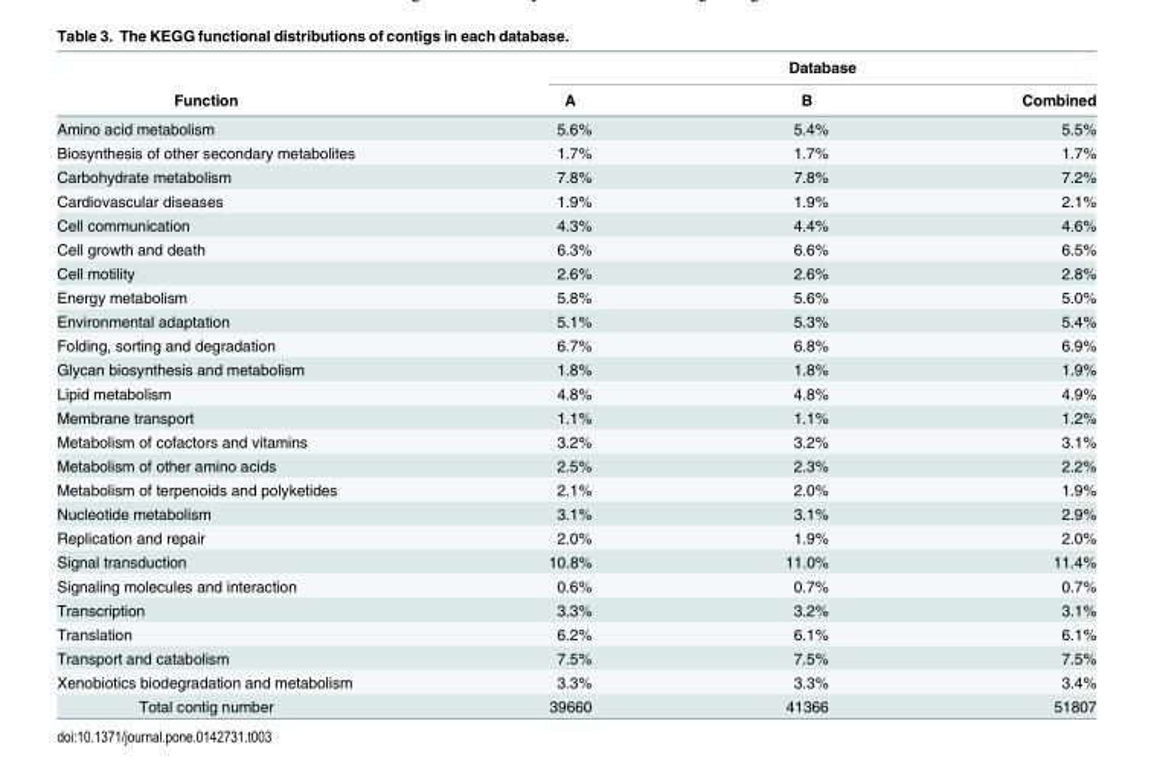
<table><thead><tr><td rowspan="2">Function</td><td colspan="3">Database</td></tr><tr><td>A</td><td>B</td><td>Combined</td></tr></thead><tbody><tr><td>Amino acid metabolism</td><td>5.6%</td><td>5.4%</td><td>5.5%</td></tr><tr><td>Biosynthesis of other secondary metabolites</td><td>1.7%</td><td>1.7%</td><td>1.7%</td></tr><tr><td>Carbohydrate metabolism</td><td>7.8%</td><td>7.8%</td><td>7.2%</td></tr><tr><td>Cardiovascular diseases</td><td>1.9%</td><td>1.9%</td><td>2.1%</td></tr><tr><td>Cell communication</td><td>4.3%</td><td>4.4%</td><td>4.6%</td></tr><tr><td>Cell growth and death</td><td>6.3%</td><td>6.6%</td><td>6.5%</td></tr><tr><td>Cell motility</td><td>2.6%</td><td>2.6%</td><td>2.8%</td></tr><tr><td>Energy metabolism</td><td>5.8%</td><td>5.6%</td><td>5.0%</td></tr><tr><td>Environmental adaptation</td><td>5.1%</td><td>5.3%</td><td>5.4%</td></tr><tr><td>Folding, sorting and degradation</td><td>6.7%</td><td>6.8%</td><td>6.9%</td></tr><tr><td>Glycan biosynthesis and metabolism</td><td>1.8%</td><td>1.8%</td><td>1.9%</td></tr><tr><td>Lipid metabolism</td><td>4.8%</td><td>4.8%</td><td>4.9%</td></tr><tr><td>Membrane transport</td><td>1.1%</td><td>1.1%</td><td>1.2%</td></tr><tr><td>Metabolism of cofactors and vitamins</td><td>3.2%</td><td>3.2%</td><td>3.1%</td></tr><tr><td>Metabolism of other amino acids</td><td>2.5%</td><td>2.3%</td><td>2.2%</td></tr><tr><td>Metabolism of terpenoids and polyketides</td><td>2.1%</td><td>2.0%</td><td>1.9%</td></tr><tr><td>Nucleotide metabolism</td><td>3.1%</td><td>3.1%</td><td>2.9%</td></tr><tr><td>Replication and repair</td><td>2.0%</td><td>1.9%</td><td>2.0%</td></tr><tr><td>Signal transduction</td><td>10.8%</td><td>11.0%</td><td>11.4%</td></tr><tr><td>Signaling molecules and interaction</td><td>0.6%</td><td>0.7%</td><td>0.7%</td></tr><tr><td>Transcription</td><td>3.3%</td><td>3.2%</td><td>3.1%</td></tr><tr><td>Translation</td><td>6.2%</td><td>6.1%</td><td>6.1%</td></tr><tr><td>Transport and catabolism</td><td>7.5%</td><td>7.5%</td><td>7.5%</td></tr><tr><td>Xenobiotics biodegradation and metabolism</td><td>3.3%</td><td>3.3%</td><td>3.4%</td></tr><tr><td>Total contig number</td><td>39660</td><td>41366</td><td>51807</td></tr></tbody></table>